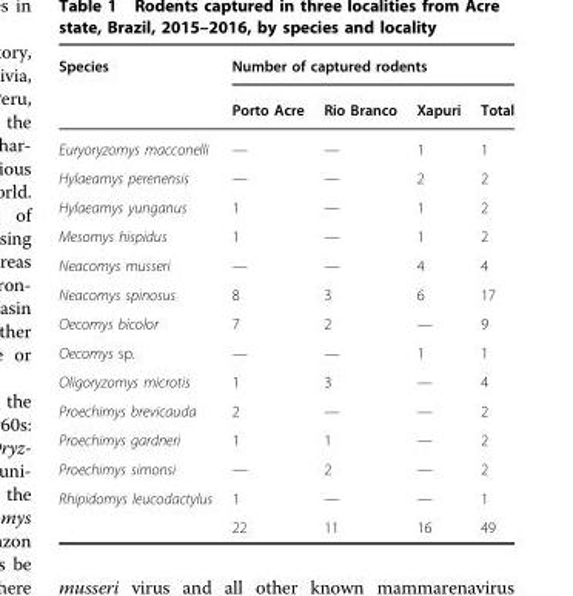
<table><thead><tr><td rowspan="2">Species</td><td colspan="4">Number of captured rodents</td></tr><tr><td>Porto Acre</td><td>Rio Branco</td><td>Xapuri</td><td>Total</td></tr></thead><tbody><tr><td>Euryoryzomys macconelli</td><td>—</td><td>—</td><td>1</td><td>1</td></tr><tr><td>Hylaeamys perenensis</td><td>—</td><td>—</td><td>2</td><td>2</td></tr><tr><td>Hylaeamys yunganus</td><td>1</td><td>—</td><td>1</td><td>2</td></tr><tr><td>Mesomys hispidus</td><td>1</td><td>—</td><td>1</td><td>2</td></tr><tr><td>Neacomys musseri</td><td>—</td><td>—</td><td>4</td><td>4</td></tr><tr><td>Neacomys spinosus</td><td>8</td><td>3</td><td>6</td><td>17</td></tr><tr><td>Oecomys bicolor</td><td>7</td><td>2</td><td>—</td><td>9</td></tr><tr><td>Oecomys sp.</td><td>—</td><td>—</td><td>1</td><td>1</td></tr><tr><td>Oligoryzomys microtis</td><td>1</td><td>3</td><td>—</td><td>4</td></tr><tr><td>Proechimys brevicauda</td><td>2</td><td>—</td><td>—</td><td>2</td></tr><tr><td>Proechimys gardneri</td><td>1</td><td>1</td><td>—</td><td>2</td></tr><tr><td>Proechimys simonsi</td><td>—</td><td>2</td><td>—</td><td>2</td></tr><tr><td rowspan="2">Rhipidomys leucodactylus</td><td>1</td><td>—</td><td>—</td><td>1</td></tr><tr><td>22</td><td>11</td><td>16</td><td>49</td></tr></tbody></table>